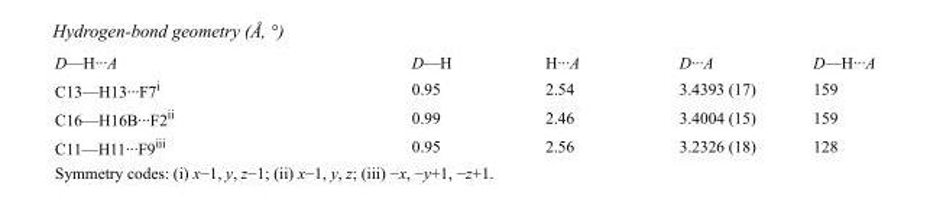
<table><tbody><tr><td>D—H···A</td><td>D—H</td><td>H···A</td><td>D···A</td><td>D—H···A</td></tr><tr><td>C13—H13···F7<sup>i</sup></td><td>0.95</td><td>2.54</td><td>3.4393 (17)</td><td>159</td></tr><tr><td>C16—H16B···F2<sup>ii</sup></td><td>0.99</td><td>2.46</td><td>3.4004 (15)</td><td>159</td></tr><tr><td>C11—H11···F9<sup>iii</sup></td><td>0.95</td><td>2.56</td><td>3.2326 (18)</td><td>128</td></tr></tbody></table>